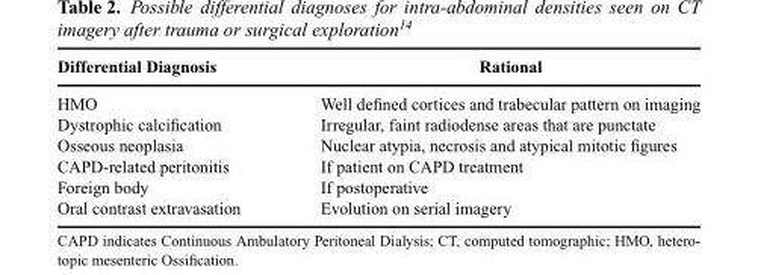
<table><thead><tr><td>Differential Diagnosis</td><td>Rational</td></tr></thead><tbody><tr><td>HMO</td><td>Well defined cortices and trabecular pattern on imaging</td></tr><tr><td>Dystrophic calcification</td><td>Irregular, faint radiodense areas that are punctate</td></tr><tr><td>Osseous neoplasia</td><td>Nuclear atypia, necrosis and atypical mitotic figures</td></tr><tr><td>CAPD-related peritonitis</td><td>If patient on CAPD treatment</td></tr><tr><td>Foreign body</td><td>If postoperative</td></tr><tr><td>Oral contrast extravasation</td><td>Evolution on serial imagery</td></tr></tbody></table>